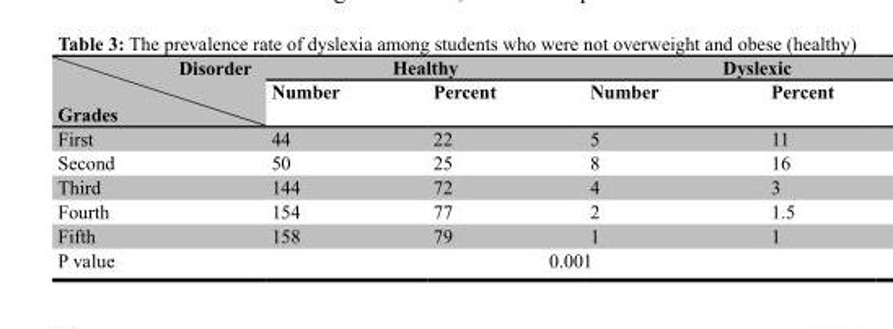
<table><thead><tr><td rowspan="2">Disorder Grades</td><td colspan="2">Healthy</td><td colspan="2">Dyslexic</td></tr><tr><td>Number</td><td>Percent</td><td>Number</td><td>Percent</td></tr></thead><tbody><tr><td>First</td><td>44</td><td>22</td><td>5</td><td>11</td></tr><tr><td>Second</td><td>50</td><td>25</td><td>8</td><td>16</td></tr><tr><td>Third</td><td>144</td><td>72</td><td>4</td><td>3</td></tr><tr><td>Fourth</td><td>154</td><td>77</td><td>2</td><td>1.5</td></tr><tr><td>Fifth</td><td>158</td><td>79</td><td>1</td><td>1</td></tr><tr><td>P value</td><td colspan="4">0.001</td></tr></tbody></table>